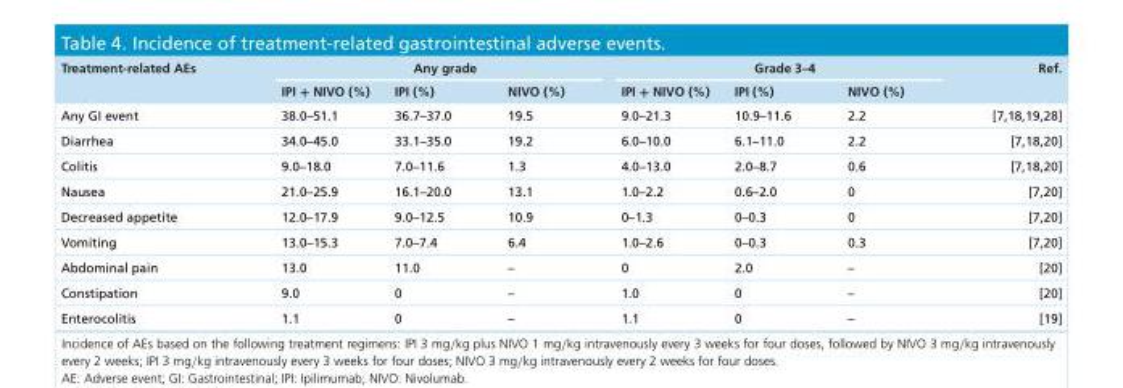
<table><thead><tr><td rowspan="2">Treatment-related AEs</td><td colspan="3">Any grade</td><td colspan="3">Grade 3–4</td><td rowspan="2">Ref.</td></tr><tr><td>IPI + NIVO (%)</td><td>IPI (%)</td><td>NIVO (%)</td><td>IPI + NIVO (%)</td><td>IPI (%)</td><td>NIVO (%)</td></tr></thead><tbody><tr><td>Any GI event</td><td>38.0–51.1</td><td>36.7–37.0</td><td>19.5</td><td>9.0–21.3</td><td>10.9–11.6</td><td>2.2</td><td>[7,18,19,28]</td></tr><tr><td>Diarrhea</td><td>34.0–45.0</td><td>33.1–35.0</td><td>19.2</td><td>6.0–10.0</td><td>6.1–11.0</td><td>2.2</td><td>[7,18,20]</td></tr><tr><td>Colitis</td><td>9.0–18.0</td><td>7.0–11.6</td><td>1.3</td><td>4.0–13.0</td><td>2.0–8.7</td><td>0.6</td><td>[7,18,20]</td></tr><tr><td>Nausea</td><td>21.0–25.9</td><td>16.1–20.0</td><td>13.1</td><td>1.0–2.2</td><td>0.6–2.0</td><td>0</td><td>[7,20]</td></tr><tr><td>Decreased appetite</td><td>12.0–17.9</td><td>9.0–12.5</td><td>10.9</td><td>0–1.3</td><td>0–0.3</td><td>0</td><td>[7,20]</td></tr><tr><td>Vomiting</td><td>13.0–15.3</td><td>7.0–7.4</td><td>6.4</td><td>1.0–2.6</td><td>0–0.3</td><td>0.3</td><td>[7,20]</td></tr><tr><td>Abdominal pain</td><td>13.0</td><td>11.0</td><td>–</td><td>0</td><td>2.0</td><td>–</td><td>[20]</td></tr><tr><td>Constipation</td><td>9.0</td><td>0</td><td>–</td><td>1.0</td><td>0</td><td>–</td><td>[20]</td></tr><tr><td>Enterocolitis</td><td>1.1</td><td>0</td><td>–</td><td>1.1</td><td>0</td><td>–</td><td>[19]</td></tr></tbody></table>